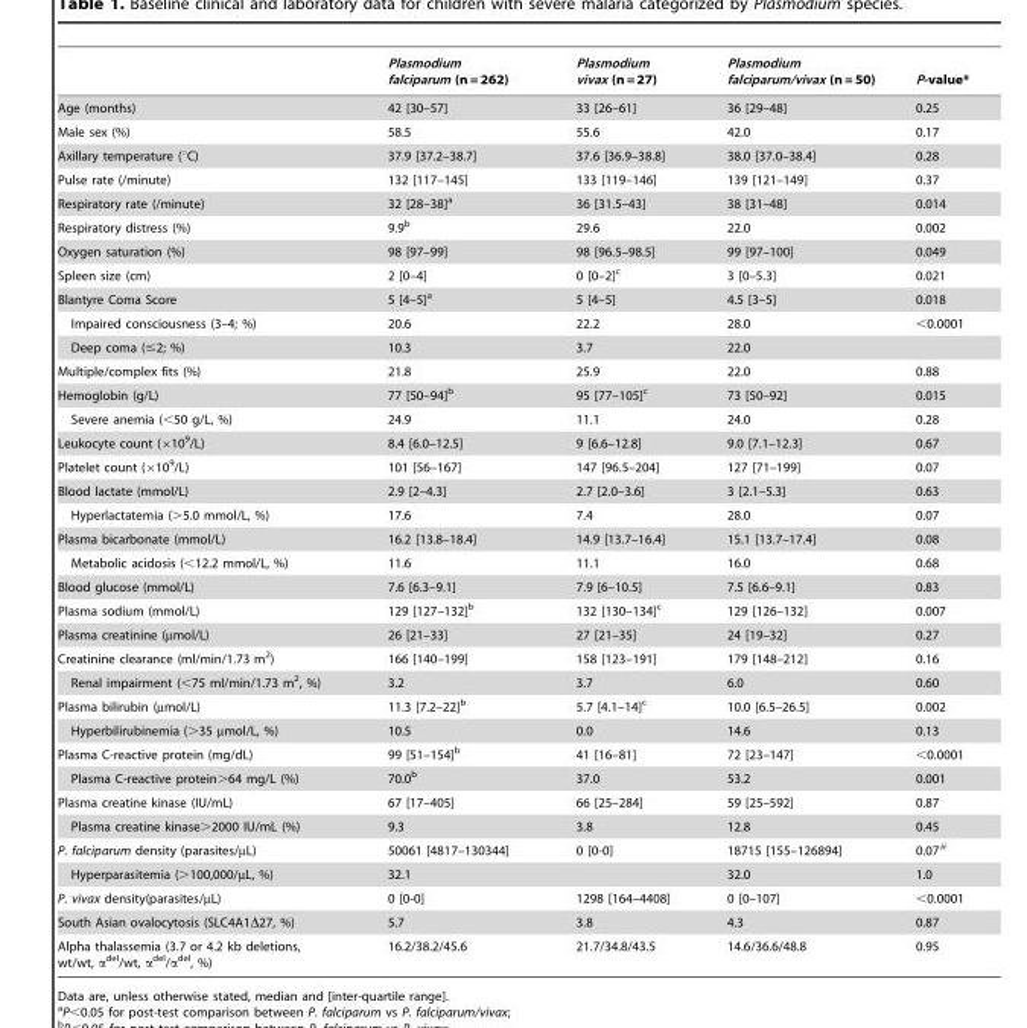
<table><thead><tr><td></td><td>Plasmodium falciparum (n = 262)</td><td>Plasmodium vivax (n = 27)</td><td>Plasmodium falciparum/vivax (n = 50)</td><td>P-value*</td></tr></thead><tbody><tr><td>Age (months)</td><td>42 [30–57]</td><td>33 [26–61]</td><td>36 [29–48]</td><td>0.25</td></tr><tr><td>Male sex (%)</td><td>58.5</td><td>55.6</td><td>42.0</td><td>0.17</td></tr><tr><td>Axillary temperature (°C)</td><td>37.9 [37.2–38.7]</td><td>37.6 [36.9–38.8]</td><td>38.0 [37.0–38.4]</td><td>0.28</td></tr><tr><td>Pulse rate (/minute)</td><td>132 [117–145]</td><td>133 [119–146]</td><td>139 [121–149]</td><td>0.37</td></tr><tr><td>Respiratory rate (/minute)</td><td>32 [28–38]<sup>a</sup></td><td>36 [31.5–43]</td><td>38 [31–48]</td><td>0.014</td></tr><tr><td>Respiratory distress (%)</td><td>9.9<sup>b</sup></td><td>29.6</td><td>22.0</td><td>0.002</td></tr><tr><td>Oxygen saturation (%)</td><td>98 [97–99]</td><td>98 [96.5–98.5]</td><td>99 [97–100]</td><td>0.049</td></tr><tr><td>Spleen size (cm)</td><td>2 [0–4]</td><td>0 [0–2]<sup>c</sup></td><td>3 [0–5.3]</td><td>0.021</td></tr><tr><td>Blantyre Coma Score</td><td>5 [4–5]<sup>a</sup></td><td>5 [4–5]</td><td>4.5 [3–5]</td><td>0.018</td></tr><tr><td>Impaired consciousness (3–4; %)</td><td>20.6</td><td>22.2</td><td>28.0</td><td>&lt;0.0001</td></tr><tr><td>Deep coma (≤2; %)</td><td>10.3</td><td>3.7</td><td>22.0</td><td></td></tr><tr><td>Multiple/complex fits (%)</td><td>21.8</td><td>25.9</td><td>22.0</td><td>0.88</td></tr><tr><td>Hemoglobin (g/L)</td><td>77 [50–94]<sup>b</sup></td><td>95 [77–105]<sup>c</sup></td><td>73 [50–92]</td><td>0.015</td></tr><tr><td>Severe anemia (&lt;50 g/L, %)</td><td>24.9</td><td>11.1</td><td>24.0</td><td>0.28</td></tr><tr><td>Leukocyte count (×10<sup>9</sup>/L)</td><td>8.4 [6.0–12.5]</td><td>9 [6.6–12.8]</td><td>9.0 [7.1–12.3]</td><td>0.67</td></tr><tr><td>Platelet count (×10<sup>9</sup>/L)</td><td>101 [56–167]</td><td>147 [96.5–204]</td><td>127 [71–199]</td><td>0.07</td></tr><tr><td>Blood lactate (mmol/L)</td><td>2.9 [2–4.3]</td><td>2.7 [2.0–3.6]</td><td>3 [2.1–5.3]</td><td>0.63</td></tr><tr><td>Hyperlactatemia (&gt;5.0 mmol/L, %)</td><td>17.6</td><td>7.4</td><td>28.0</td><td>0.07</td></tr><tr><td>Plasma bicarbonate (mmol/L)</td><td>16.2 [13.8–18.4]</td><td>14.9 [13.7–16.4]</td><td>15.1 [13.7–17.4]</td><td>0.08</td></tr><tr><td>Metabolic acidosis (&lt;12.2 mmol/L, %)</td><td>11.6</td><td>11.1</td><td>16.0</td><td>0.68</td></tr><tr><td>Blood glucose (mmol/L)</td><td>7.6 [6.3–9.1]</td><td>7.9 [6–10.5]</td><td>7.5 [6.6–9.1]</td><td>0.83</td></tr><tr><td>Plasma sodium (mmol/L)</td><td>129 [127–132]<sup>b</sup></td><td>132 [130–134]<sup>c</sup></td><td>129 [126–132]</td><td>0.007</td></tr><tr><td>Plasma creatinine (µmol/L)</td><td>26 [21–33]</td><td>27 [21–35]</td><td>24 [19–32]</td><td>0.27</td></tr><tr><td>Creatinine clearance (ml/min/1.73 m<sup>2</sup>)</td><td>166 [140–199]</td><td>158 [123–191]</td><td>179 [148–212]</td><td>0.16</td></tr><tr><td>Renal impairment (&lt;75 ml/min/1.73 m<sup>2</sup>, %)</td><td>3.2</td><td>3.7</td><td>6.0</td><td>0.60</td></tr><tr><td>Plasma bilirubin (µmol/L)</td><td>11.3 [7.2–22]<sup>b</sup></td><td>5.7 [4.1–14]<sup>c</sup></td><td>10.0 [6.5–26.5]</td><td>0.002</td></tr><tr><td>Hyperbilirubinemia (&gt;35 µmol/L, %)</td><td>10.5</td><td>0.0</td><td>14.6</td><td>0.13</td></tr><tr><td>Plasma C-reactive protein (mg/dL)</td><td>99 [51–154]<sup>b</sup></td><td>41 [16–81]</td><td>72 [23–147]</td><td>&lt;0.0001</td></tr><tr><td>Plasma C-reactive protein&gt;64 mg/L (%)</td><td>70.0<sup>b</sup></td><td>37.0</td><td>53.2</td><td>0.001</td></tr><tr><td>Plasma creatine kinase (IU/mL)</td><td>67 [17–405]</td><td>66 [25–284]</td><td>59 [25–592]</td><td>0.87</td></tr><tr><td>Plasma creatine kinase&gt;2000 IU/mL (%)</td><td>9.3</td><td>3.8</td><td>12.8</td><td>0.45</td></tr><tr><td>P. falciparum density (parasites/µL)</td><td>50061 [4817–130344]</td><td>0 [0-0]</td><td>18715 [155–126894]</td><td>0.07#</td></tr><tr><td>Hyperparasitemia (&gt;100,000/µL, %)</td><td>32.1</td><td></td><td>32.0</td><td>1.0</td></tr><tr><td>P. vivax density(parasites/µL)</td><td>0 [0-0]</td><td>1298 [164–4408]</td><td>0 [0–107]</td><td>&lt;0.0001</td></tr><tr><td>South Asian ovalocytosis (SLC4A1Δ27, %)</td><td>5.7</td><td>3.8</td><td>4.3</td><td>0.87</td></tr><tr><td>Alpha thalassemia (3.7 or 4.2 kb deletions, wt/wt, α<sup>del</sup>/wt, α<sup>del</sup>/α<sup>del</sup>, %)</td><td>16.2/38.2/45.6</td><td>21.7/34.8/43.5</td><td>14.6/36.6/48.8</td><td>0.95</td></tr></tbody></table>